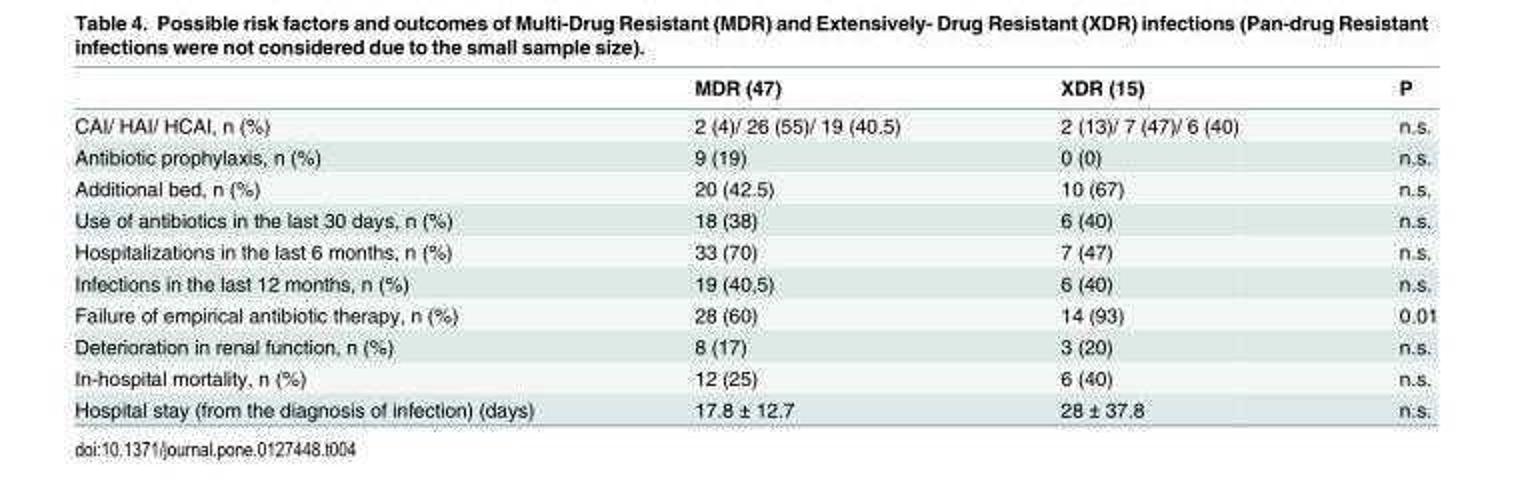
<table><thead><tr><td></td><td>MDR (47)</td><td>XDR (15)</td><td>P</td></tr></thead><tbody><tr><td>CAI/ HAI/ HCAI, n (%)</td><td>2 (4)/ 26 (55)/ 19 (40.5)</td><td>2 (13)/ 7 (47)/ 6 (40)</td><td>n.s.</td></tr><tr><td>Antibiotic prophylaxis, n (%)</td><td>9 (19)</td><td>0 (0)</td><td>n.s.</td></tr><tr><td>Additional bed, n (%)</td><td>20 (42.5)</td><td>10 (67)</td><td>n.s.</td></tr><tr><td>Use of antibiotics in the last 30 days, n (%)</td><td>18 (38)</td><td>6 (40)</td><td>n.s.</td></tr><tr><td>Hospitalizations in the last 6 months, n (%)</td><td>33 (70)</td><td>7 (47)</td><td>n.s.</td></tr><tr><td>Infections in the last 12 months, n (%)</td><td>19 (40,5)</td><td>6 (40)</td><td>n.s.</td></tr><tr><td>Failure of empirical antibiotic therapy, n (%)</td><td>28 (60)</td><td>14 (93)</td><td>0.01</td></tr><tr><td>Deterioration in renal function, n (%)</td><td>8 (17)</td><td>3 (20)</td><td>n.s.</td></tr><tr><td>In-hospital mortality, n (%)</td><td>12 (25)</td><td>6 (40)</td><td>n.s.</td></tr><tr><td>Hospital stay (from the diagnosis of infection) (days)</td><td>17.8 ± 12.7</td><td>28 ± 37.8</td><td>n.s.</td></tr></tbody></table>